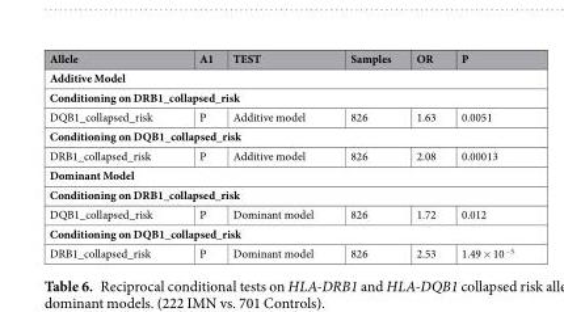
<table><thead><tr><td>Allele</td><td>A1</td><td>TEST</td><td>Samples</td><td>OR</td><td>P</td></tr></thead><tbody><tr><td colspan="6">Additive Model</td></tr><tr><td colspan="6">Conditioning on DRB1_collapsed_risk</td></tr><tr><td>DQB1_collapsed_risk</td><td>P</td><td>Additive model</td><td>826</td><td>1.63</td><td>0.0051</td></tr><tr><td colspan="6">Conditioning on DQB1_collapsed_risk</td></tr><tr><td>DRB1_collapsed_risk</td><td>P</td><td>Additive model</td><td>826</td><td>2.08</td><td>0.00013</td></tr><tr><td colspan="6">Dominant Model</td></tr><tr><td colspan="6">Conditioning on DRB1_collapsed_risk</td></tr><tr><td>DQB1_collapsed_risk</td><td>P</td><td>Dominant model</td><td>826</td><td>1.72</td><td>0.012</td></tr><tr><td colspan="6">Conditioning on DQB1_collapsed_risk</td></tr><tr><td>DRB1_collapsed_risk</td><td>P</td><td>Dominant model</td><td>826</td><td>2.53</td><td>1.49 × 10<sup>−5</sup></td></tr></tbody></table>